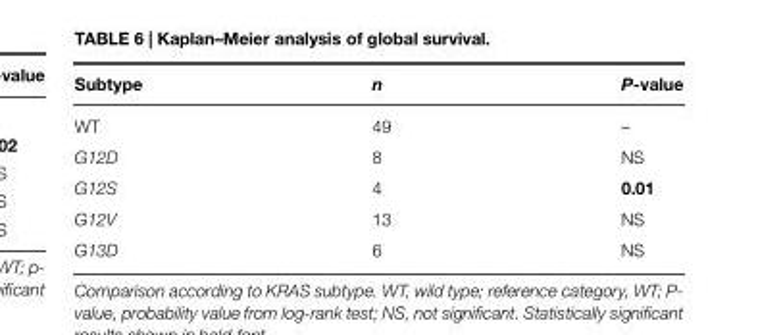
<table><thead><tr><td>Subtype</td><td>n</td><td>P-value</td></tr></thead><tbody><tr><td>WT</td><td>49</td><td>–</td></tr><tr><td>G12D</td><td>8</td><td>NS</td></tr><tr><td>G12S</td><td>4</td><td>0.01</td></tr><tr><td>G12V</td><td>13</td><td>NS</td></tr><tr><td>G13D</td><td>6</td><td>NS</td></tr></tbody></table>